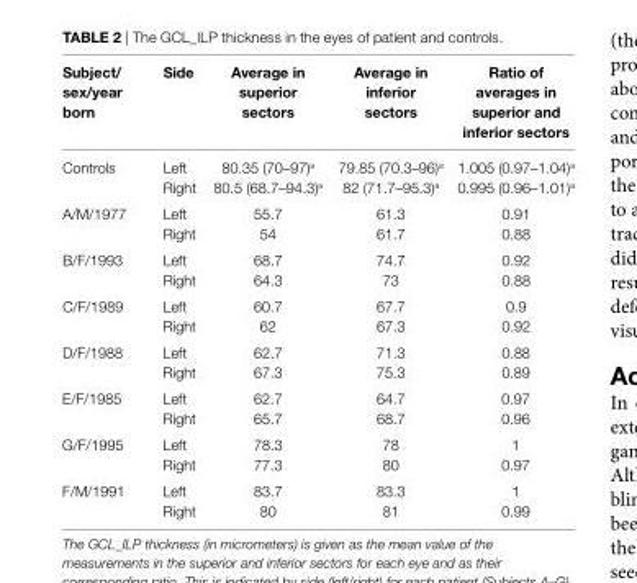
<table><thead><tr><td>subject/ sex/year born</td><td>side</td><td>average in superior sectors</td><td>average in inferior sectors</td><td>ratio of averages in superior and inferior sectors</td></tr></thead><tbody><tr><td rowspan="2">Controls</td><td>Left</td><td>80.35 (70–97)<sup>a</sup></td><td>79.85 (70.3–96)<sup>a</sup></td><td>1.005 (0.97–1.04)<sup>a</sup></td></tr><tr><td>Right</td><td>80.5 (68.7–94.3)<sup>a</sup></td><td>82 (71.7–95.3)<sup>a</sup></td><td>0.995 (0.96–1.01)<sup>a</sup></td></tr><tr><td rowspan="2">A/M/1977</td><td>Left</td><td>55.7</td><td>61.3</td><td>0.91</td></tr><tr><td>Right</td><td>54</td><td>61.7</td><td>0.88</td></tr><tr><td rowspan="2">B/F/1993</td><td>Left</td><td>68.7</td><td>74.7</td><td>0.92</td></tr><tr><td>Right</td><td>64.3</td><td>73</td><td>0.88</td></tr><tr><td rowspan="2">C/F/1989</td><td>Left</td><td>60.7</td><td>67.7</td><td>0.9</td></tr><tr><td>Right</td><td>62</td><td>67.3</td><td>0.92</td></tr><tr><td rowspan="2">D/F/1988</td><td>Left</td><td>62.7</td><td>71.3</td><td>0.88</td></tr><tr><td>Right</td><td>67.3</td><td>75.3</td><td>0.89</td></tr><tr><td rowspan="2">E/F/1985</td><td>Left</td><td>62.7</td><td>64.7</td><td>0.97</td></tr><tr><td>Right</td><td>65.7</td><td>68.7</td><td>0.96</td></tr><tr><td rowspan="2">G/F/1995</td><td>Left</td><td>78.3</td><td>78</td><td>1</td></tr><tr><td>Right</td><td>77.3</td><td>80</td><td>0.97</td></tr><tr><td rowspan="2">F/M/1991</td><td>Left</td><td>83.7</td><td>83.3</td><td>1</td></tr><tr><td>Right</td><td>80</td><td>81</td><td>0.99</td></tr></tbody></table>